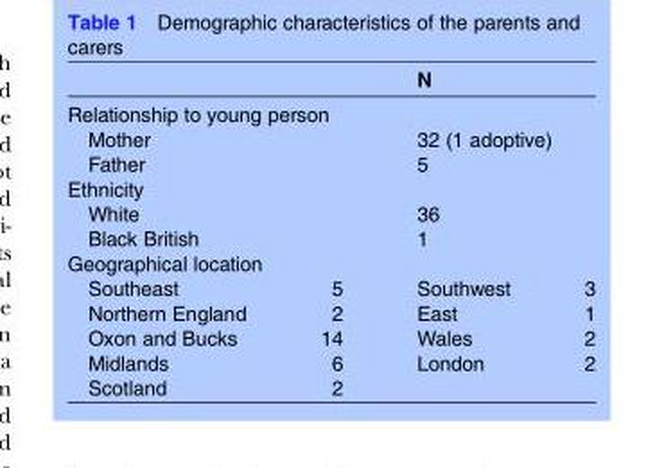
<table><thead><tr><td></td><td></td><td colspan="2">N</td></tr></thead><tbody><tr><td colspan="4">Relationship to young person</td></tr><tr><td colspan="2">Mother</td><td colspan="2">32 (1 adoptive)</td></tr><tr><td colspan="2">Father</td><td colspan="2">5</td></tr><tr><td colspan="4">Ethnicity</td></tr><tr><td colspan="2">White</td><td colspan="2">36</td></tr><tr><td colspan="2">Black British</td><td colspan="2">1</td></tr><tr><td colspan="4">Geographical location</td></tr><tr><td>Southeast</td><td>5</td><td>Southwest</td><td>3</td></tr><tr><td>Northern England</td><td>2</td><td>East</td><td>1</td></tr><tr><td>Oxon and Bucks</td><td>14</td><td>Wales</td><td>2</td></tr><tr><td>Midlands</td><td>6</td><td>London</td><td>2</td></tr><tr><td>Scotland</td><td>2</td><td></td><td></td></tr></tbody></table>